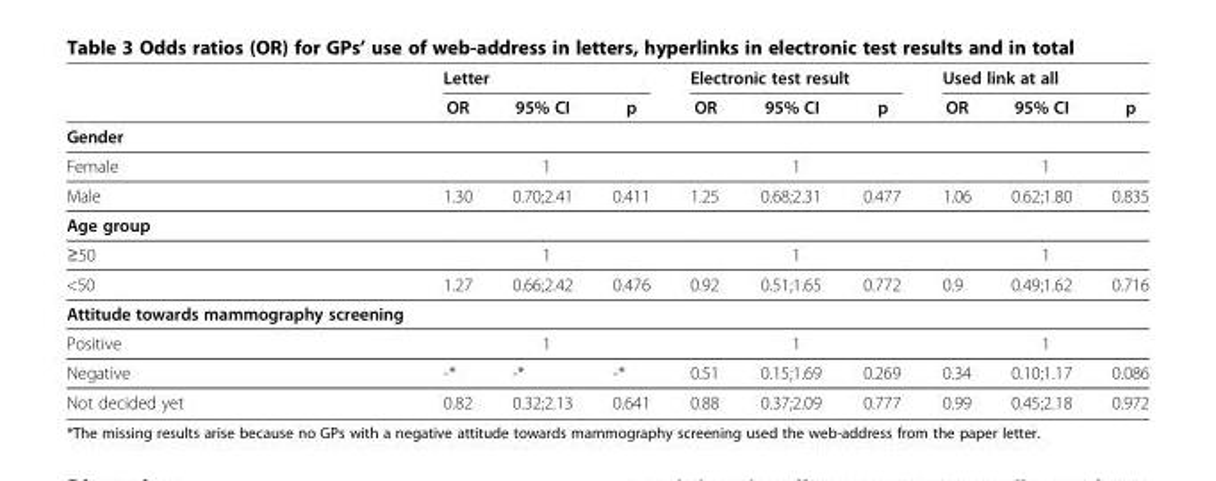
<table><thead><tr><td rowspan="2"></td><td colspan="3">Letter</td><td colspan="3">Electronic test result</td><td colspan="3">Used link at all</td></tr><tr><td>OR</td><td>95% CI</td><td>p</td><td>OR</td><td>95% CI</td><td>p</td><td>OR</td><td>95% CI</td><td>p</td></tr></thead><tbody><tr><td colspan="10">Gender</td></tr><tr><td>Female</td><td colspan="3">1</td><td colspan="3">1</td><td colspan="3">1</td></tr><tr><td>Male</td><td>1.30</td><td>0.70;2.41</td><td>0.411</td><td>1.25</td><td>0.68;2.31</td><td>0.477</td><td>1.06</td><td>0.62;1.80</td><td>0.835</td></tr><tr><td colspan="10">Age group</td></tr><tr><td>≥50</td><td colspan="3">1</td><td colspan="3">1</td><td colspan="3">1</td></tr><tr><td>&lt;50</td><td>1.27</td><td>0.66;2.42</td><td>0.476</td><td>0.92</td><td>0.51;1.65</td><td>0.772</td><td>0.9</td><td>0.49;1.62</td><td>0.716</td></tr><tr><td colspan="10">Attitude towards mammography screening</td></tr><tr><td>Positive</td><td colspan="3">1</td><td colspan="3">1</td><td colspan="3">1</td></tr><tr><td>Negative</td><td>-*</td><td>-*</td><td>-*</td><td>0.51</td><td>0.15;1.69</td><td>0.269</td><td>0.34</td><td>0.10;1.17</td><td>0.086</td></tr><tr><td>Not decided yet</td><td>0.82</td><td>0.32;2.13</td><td>0.641</td><td>0.88</td><td>0.37;2.09</td><td>0.777</td><td>0.99</td><td>0.45;2.18</td><td>0.972</td></tr></tbody></table>